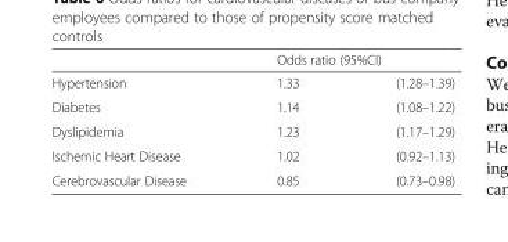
<table><thead><tr><td rowspan="2">Hypertension</td><td colspan="2">Odds ratio (95%CI)</td></tr><tr><td>1.33</td><td>(1.28–1.39)</td></tr></thead><tbody><tr><td>Diabetes</td><td>1.14</td><td>(1.08–1.22)</td></tr><tr><td>Dyslipidemia</td><td>1.23</td><td>(1.17–1.29)</td></tr><tr><td>Ischemic Heart Disease</td><td>1.02</td><td>(0.92–1.13)</td></tr><tr><td>Cerebrovascular Disease</td><td>0.85</td><td>(0.73–0.98)</td></tr></tbody></table>